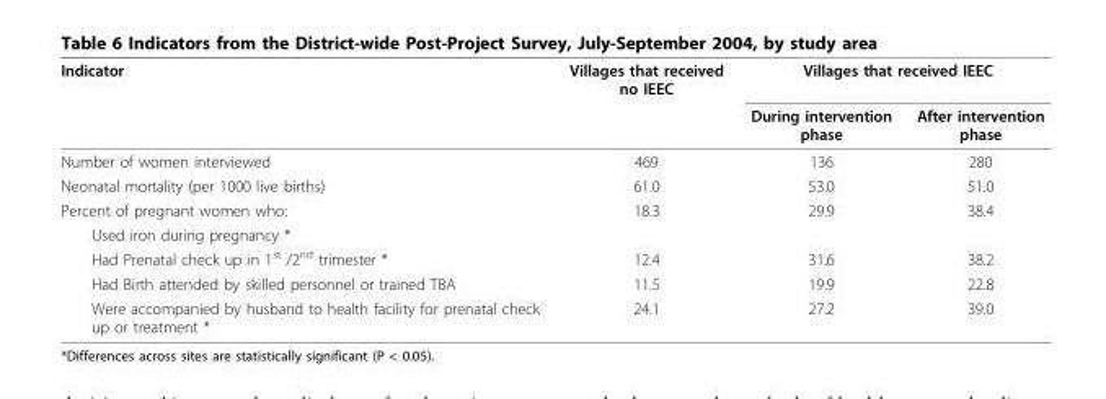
<table><thead><tr><td rowspan="2">Indicator</td><td rowspan="2">Villages that received no IEEC</td><td colspan="2">Villages that received IEEC</td></tr><tr><td>During intervention phase</td><td>After intervention phase</td></tr></thead><tbody><tr><td>Number of women interviewed</td><td>469</td><td>136</td><td>280</td></tr><tr><td>Neonatal mortality (per 1000 live births)</td><td>61.0</td><td>53.0</td><td>51.0</td></tr><tr><td>Percent of pregnant women who:</td><td>18.3</td><td>29.9</td><td>38.4</td></tr><tr><td colspan="4">Used iron during pregnancy *</td></tr><tr><td>Had Prenatal check up in 1<sup>st</sup> /2<sup>nd</sup> trimester *</td><td>12.4</td><td>31.6</td><td>38.2</td></tr><tr><td>Had Birth attended by skilled personnel or trained TBA</td><td>11.5</td><td>19.9</td><td>22.8</td></tr><tr><td>Were accompanied by husband to health facility for prenatal check up or treatment *</td><td>24.1</td><td>27.2</td><td>39.0</td></tr></tbody></table>